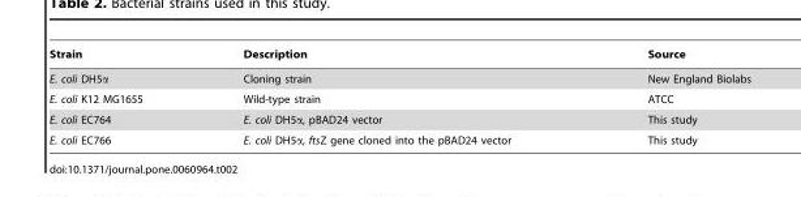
<table><thead><tr><td>Strain</td><td>Description</td><td>Source</td></tr></thead><tbody><tr><td>E. coli DH5α</td><td>Cloning strain</td><td>New England Biolabs</td></tr><tr><td>E. coli K12 MG1655</td><td>Wild-type strain</td><td>ATCC</td></tr><tr><td>E. coli EC764</td><td>E. coli DH5α, pBAD24 vector</td><td>This study</td></tr><tr><td>E. coli EC766</td><td>E. coli DH5α, ftsZ gene cloned into the pBAD24 vector</td><td>This study</td></tr></tbody></table>